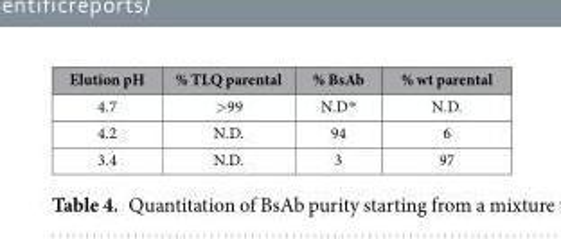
<table><thead><tr><td>Elution pH</td><td>% TLQ parental</td><td>% BsAb</td><td>% wt parental</td></tr></thead><tbody><tr><td>4.7</td><td>&gt;99</td><td>N.D*</td><td>N.D.</td></tr><tr><td>4.2</td><td>N.D.</td><td>94</td><td>6</td></tr><tr><td>3.4</td><td>N.D.</td><td>3</td><td>97</td></tr></tbody></table>